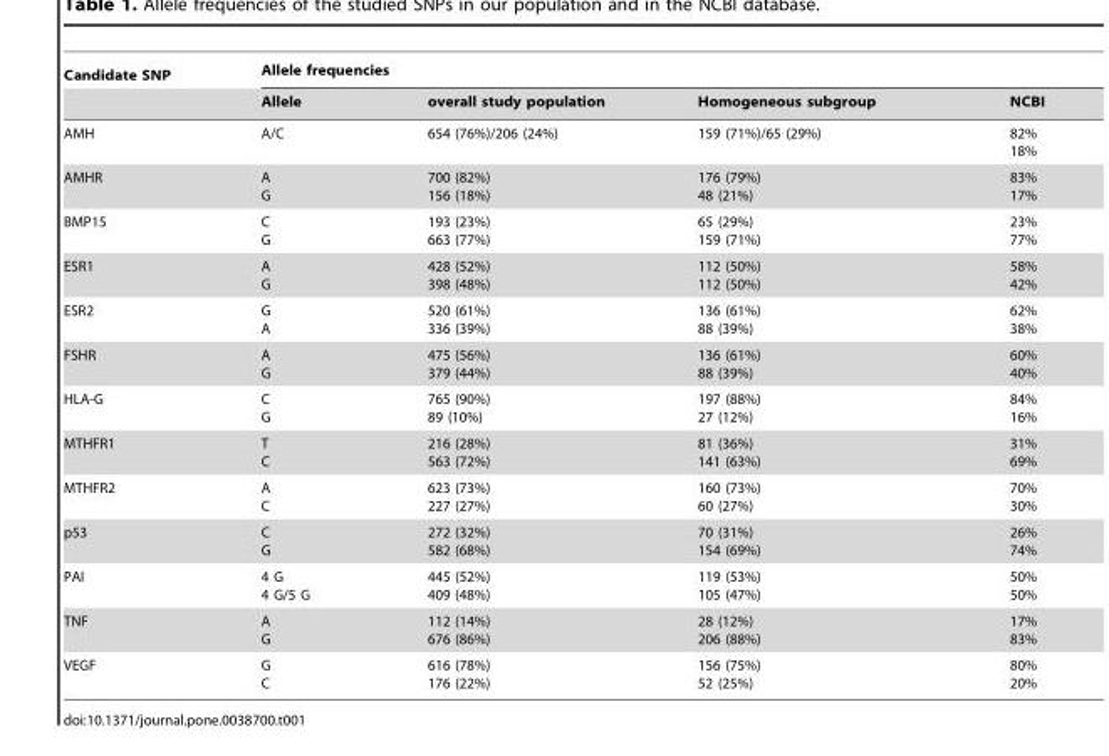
<table><thead><tr><td rowspan="2">Candidate SNP</td><td colspan="4">Allele frequencies</td></tr><tr><td>Allele</td><td>overall study population</td><td>Homogeneous subgroup</td><td>NCBI</td></tr></thead><tbody><tr><td>AMH</td><td>A/C</td><td>654 (76%)/206 (24%)</td><td>159 (71%)/65 (29%)</td><td>82% 18%</td></tr><tr><td>AMHR</td><td>A G</td><td>700 (82%) 156 (18%)</td><td>176 (79%) 48 (21%)</td><td>83% 17%</td></tr><tr><td>BMP15</td><td>C G</td><td>193 (23%) 663 (77%)</td><td>65 (29%) 159 (71%)</td><td>23% 77%</td></tr><tr><td>ESR1</td><td>A G</td><td>428 (52%) 398 (48%)</td><td>112 (50%) 112 (50%)</td><td>58% 42%</td></tr><tr><td>ESR2</td><td>G A</td><td>520 (61%) 336 (39%)</td><td>136 (61%) 88 (39%)</td><td>62% 38%</td></tr><tr><td>FSHR</td><td>A G</td><td>475 (56%) 379 (44%)</td><td>136 (61%) 88 (39%)</td><td>60% 40%</td></tr><tr><td>HLA-G</td><td>C G</td><td>765 (90%) 89 (10%)</td><td>197 (88%) 27 (12%)</td><td>84% 16%</td></tr><tr><td>MTHFR1</td><td>T C</td><td>216 (28%) 563 (72%)</td><td>81 (36%) 141 (63%)</td><td>31% 69%</td></tr><tr><td>MTHFR2</td><td>A C</td><td>623 (73%) 227 (27%)</td><td>160 (73%) 60 (27%)</td><td>70% 30%</td></tr><tr><td>p53</td><td>C G</td><td>272 (32%) 582 (68%)</td><td>70 (31%) 154 (69%)</td><td>26% 74%</td></tr><tr><td>PAI</td><td>4 G 4 G/5 G</td><td>445 (52%) 409 (48%)</td><td>119 (53%) 105 (47%)</td><td>50% 50%</td></tr><tr><td>TNF</td><td>A G</td><td>112 (14%) 676 (86%)</td><td>28 (12%) 206 (88%)</td><td>17% 83%</td></tr><tr><td>VEGF</td><td>G C</td><td>616 (78%) 176 (22%)</td><td>156 (75%) 52 (25%)</td><td>80% 20%</td></tr></tbody></table>